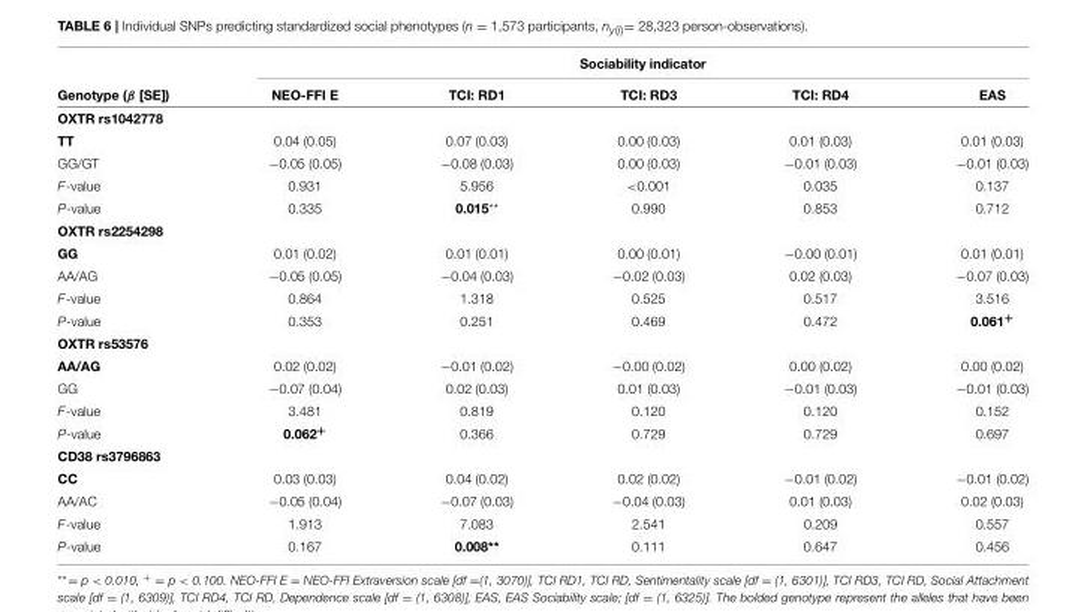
<table><thead><tr><td rowspan="2">Genotype (β [SE])</td><td colspan="5">Sociability indicator</td></tr><tr><td>NEO-FFI E</td><td>TCI: RD1</td><td>TCI: RD3</td><td>TCI: RD4</td><td>EAS</td></tr></thead><tbody><tr><td colspan="6">OXTR rs1042778</td></tr><tr><td>TT</td><td>0.04 (0.05)</td><td>0.07 (0.03)</td><td>0.00 (0.03)</td><td>0.01 (0.03)</td><td>0.01 (0.03)</td></tr><tr><td>GG/GT</td><td>−0.05 (0.05)</td><td>−0.08 (0.03)</td><td>0.00 (0.03)</td><td>−0.01 (0.03)</td><td>−0.01 (0.03)</td></tr><tr><td>F-value</td><td>0.931</td><td>5.956</td><td>&lt;0.001</td><td>0.035</td><td>0.137</td></tr><tr><td>P-value</td><td>0.335</td><td>0.015**</td><td>0.990</td><td>0.853</td><td>0.712</td></tr><tr><td colspan="6">OXTR rs2254298</td></tr><tr><td>GG</td><td>0.01 (0.02)</td><td>0.01 (0.01)</td><td>0.00 (0.01)</td><td>−0.00 (0.01)</td><td>0.01 (0.01)</td></tr><tr><td>AA/AG</td><td>−0.05 (0.05)</td><td>−0.04 (0.03)</td><td>−0.02 (0.03)</td><td>0.02 (0.03)</td><td>−0.07 (0.03)</td></tr><tr><td>F-value</td><td>0.864</td><td>1.318</td><td>0.525</td><td>0.517</td><td>3.516</td></tr><tr><td>P-value</td><td>0.353</td><td>0.251</td><td>0.469</td><td>0.472</td><td>0.061<sup>+</sup></td></tr><tr><td colspan="6">OXTR rs53576</td></tr><tr><td>AA/AG</td><td>0.02 (0.02)</td><td>−0.01 (0.02)</td><td>−0.00 (0.02)</td><td>0.00 (0.02)</td><td>0.00 (0.02)</td></tr><tr><td>GG</td><td>−0.07 (0.04)</td><td>0.02 (0.03)</td><td>0.01 (0.03)</td><td>−0.01 (0.03)</td><td>−0.01 (0.03)</td></tr><tr><td>F-value</td><td>3.481</td><td>0.819</td><td>0.120</td><td>0.120</td><td>0.152</td></tr><tr><td>P-value</td><td>0.062<sup>+</sup></td><td>0.366</td><td>0.729</td><td>0.729</td><td>0.697</td></tr><tr><td colspan="6">CD38 rs3796863</td></tr><tr><td>CC</td><td>0.03 (0.03)</td><td>0.04 (0.02)</td><td>0.02 (0.02)</td><td>−0.01 (0.02)</td><td>−0.01 (0.02)</td></tr><tr><td>AA/AC</td><td>−0.05 (0.04)</td><td>−0.07 (0.03)</td><td>−0.04 (0.03)</td><td>0.01 (0.03)</td><td>0.02 (0.03)</td></tr><tr><td>F-value</td><td>1.913</td><td>7.083</td><td>2.541</td><td>0.209</td><td>0.557</td></tr><tr><td>P-value</td><td>0.167</td><td>0.008**</td><td>0.111</td><td>0.647</td><td>0.456</td></tr></tbody></table>